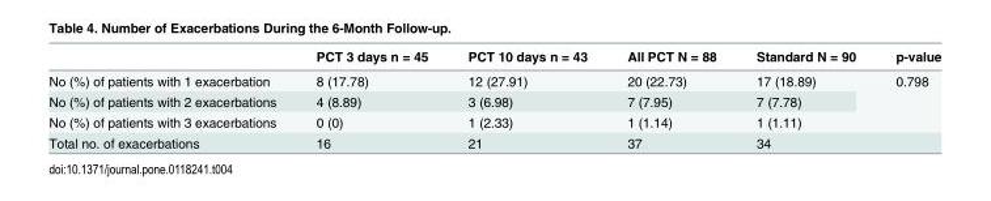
<table><thead><tr><td></td><td>PCT 3 days n = 45</td><td>PCT 10 days n = 43</td><td>All PCT N = 88</td><td>Standard N = 90</td><td>p-value</td></tr></thead><tbody><tr><td>No (%) of patients with 1 exacerbation</td><td>8 (17.78)</td><td>12 (27.91)</td><td>20 (22.73)</td><td>17 (18.89)</td><td rowspan="3">0.798</td></tr><tr><td>No (%) of patients with 2 exacerbations</td><td>4 (8.89)</td><td>3 (6.98)</td><td>7 (7.95)</td><td>7 (7.78)</td></tr><tr><td>No (%) of patients with 3 exacerbations</td><td>0 (0)</td><td>1 (2.33)</td><td>1 (1.14)</td><td>1 (1.11)</td></tr><tr><td>Total no. of exacerbations</td><td>16</td><td>21</td><td>37</td><td>34</td><td></td></tr></tbody></table>